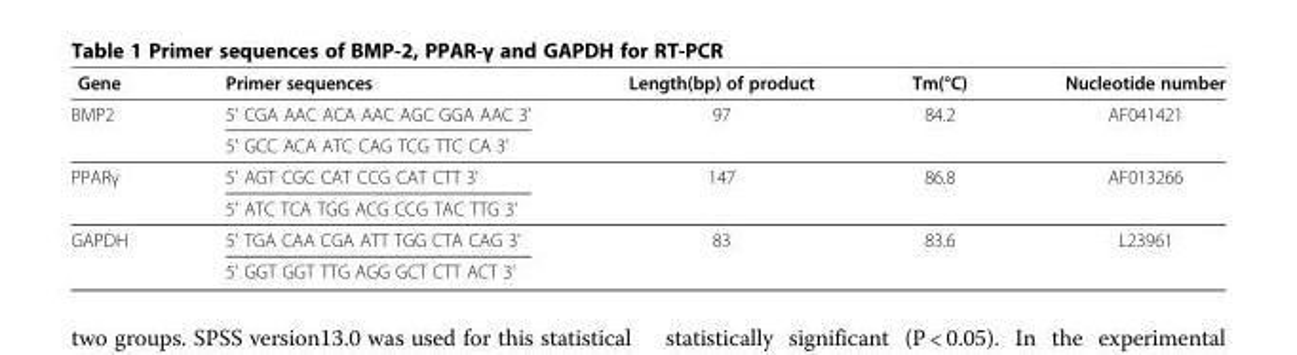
<table><thead><tr><td>Gene</td><td>Primer sequences</td><td>Length(bp) of product</td><td>Tm(°C)</td><td>Nucleotide number</td></tr></thead><tbody><tr><td rowspan="2">BMP2</td><td>5&#x27; CGA AAC ACA AAC AGC GGA AAC 3&#x27;</td><td rowspan="2">97</td><td rowspan="2">84.2</td><td rowspan="2">AF041421</td></tr><tr><td>5&#x27; GCC ACA ATC CAG TCG TTC CA 3&#x27;</td></tr><tr><td rowspan="2">PPARγ</td><td>5&#x27; AGT CGC CAT CCG CAT CTT 3&#x27;</td><td rowspan="2">147</td><td rowspan="2">86.8</td><td rowspan="2">AF013266</td></tr><tr><td>5&#x27; ATC TCA TGG ACG CCG TAC TTG 3&#x27;</td></tr><tr><td rowspan="2">GAPDH</td><td>5&#x27; TGA CAA CGA ATT TGG CTA CAG 3&#x27;</td><td rowspan="2">83</td><td rowspan="2">83.6</td><td rowspan="2">L23961</td></tr><tr><td>5&#x27; GGT GGT TTG AGG GCT CTT ACT 3&#x27;</td></tr></tbody></table>